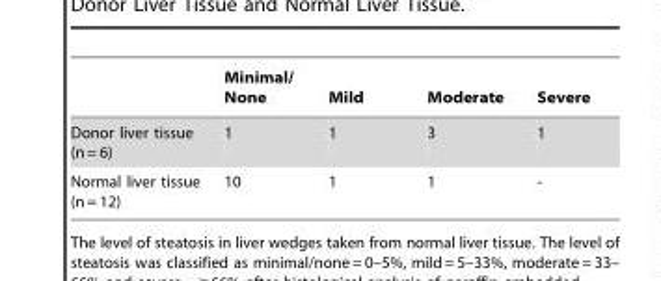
<table><thead><tr><td></td><td>Minimal/ None</td><td>Mild</td><td>Moderate</td><td>Severe</td></tr></thead><tbody><tr><td>Donor liver tissue (n = 6)</td><td>1</td><td>1</td><td>3</td><td>1</td></tr><tr><td>Normal liver tissue (n = 12)</td><td>10</td><td>1</td><td>1</td><td>-</td></tr></tbody></table>